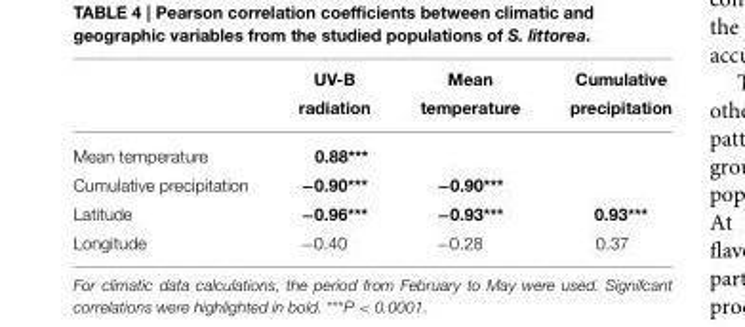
<table><thead><tr><td></td><td>UV-B radiation</td><td>Mean temperature</td><td>Cumulative precipitation</td></tr></thead><tbody><tr><td>Mean temperature</td><td>0.88***</td><td></td><td></td></tr><tr><td>Cumulative precipitation</td><td>−0.90***</td><td>−0.90***</td><td></td></tr><tr><td>Latitude</td><td>−0.96***</td><td>−0.93***</td><td>0.93***</td></tr><tr><td>Longitude</td><td>−0.40</td><td>−0.28</td><td>0.37</td></tr></tbody></table>